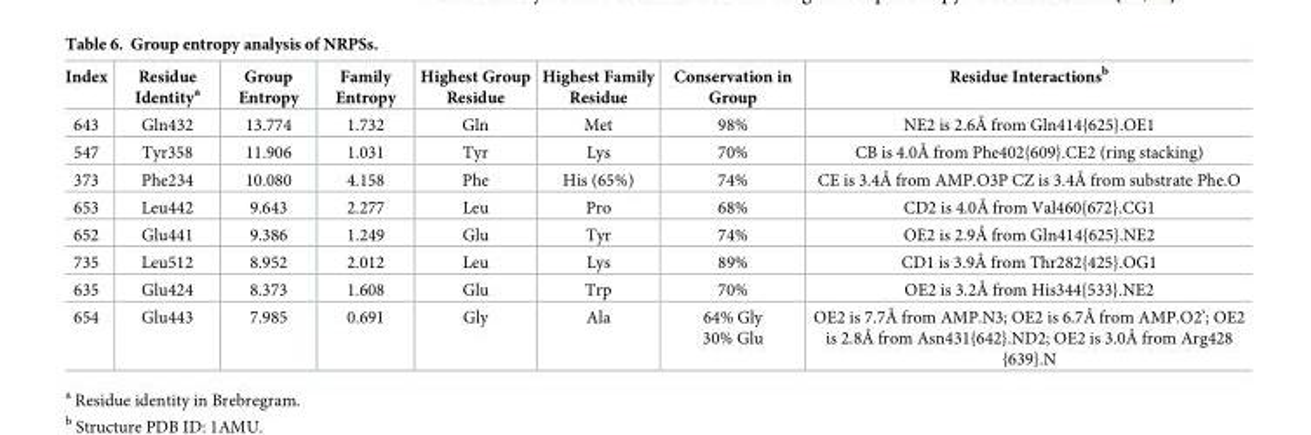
<table><thead><tr><td>Index</td><td>Residue Identity<sup>a</sup></td><td>Group Entropy</td><td>Family Entropy</td><td>Highest Group Residue</td><td>Highest Family Residue</td><td>Conservation in Group</td><td>Residue Interactions<sup>b</sup></td></tr></thead><tbody><tr><td>643</td><td>Gln432</td><td>13.774</td><td>1.732</td><td>Gln</td><td>Met</td><td>98%</td><td>NE2 is 2.6Å from Gln414{625}.OE1</td></tr><tr><td>547</td><td>Tyr358</td><td>11.906</td><td>1.031</td><td>Tyr</td><td>Lys</td><td>70%</td><td>CB is 4.0Å from Phe402{609}.CE2 (ring stacking)</td></tr><tr><td>373</td><td>Phe234</td><td>10.080</td><td>4.158</td><td>Phe</td><td>His (65%)</td><td>74%</td><td>CE is 3.4Å from AMP.O3P CZ is 3.4Å from substrate Phe.O</td></tr><tr><td>653</td><td>Leu442</td><td>9.643</td><td>2.277</td><td>Leu</td><td>Pro</td><td>68%</td><td>CD2 is 4.0Å from Val460{672}.CG1</td></tr><tr><td>652</td><td>Glu441</td><td>9.386</td><td>1.249</td><td>Glu</td><td>Tyr</td><td>74%</td><td>OE2 is 2.9Å from Gln414{625}.NE2</td></tr><tr><td>735</td><td>Leu512</td><td>8.952</td><td>2.012</td><td>Leu</td><td>Lys</td><td>89%</td><td>CD1 is 3.9Å from Thr282{425}.OG1</td></tr><tr><td>635</td><td>Glu424</td><td>8.373</td><td>1.608</td><td>Glu</td><td>Trp</td><td>70%</td><td>OE2 is 3.2Å from His344{533}.NE2</td></tr><tr><td>654</td><td>Glu443</td><td>7.985</td><td>0.691</td><td>Gly</td><td>Ala</td><td>64% Gly 30% Glu</td><td>OE2 is 7.7Å from AMP.N3; OE2 is 6.7Å from AMP.O2’; OE2 is 2.8Å from Asn431{642}.ND2; OE2 is 3.0Å from Arg428 {639}.N</td></tr></tbody></table>